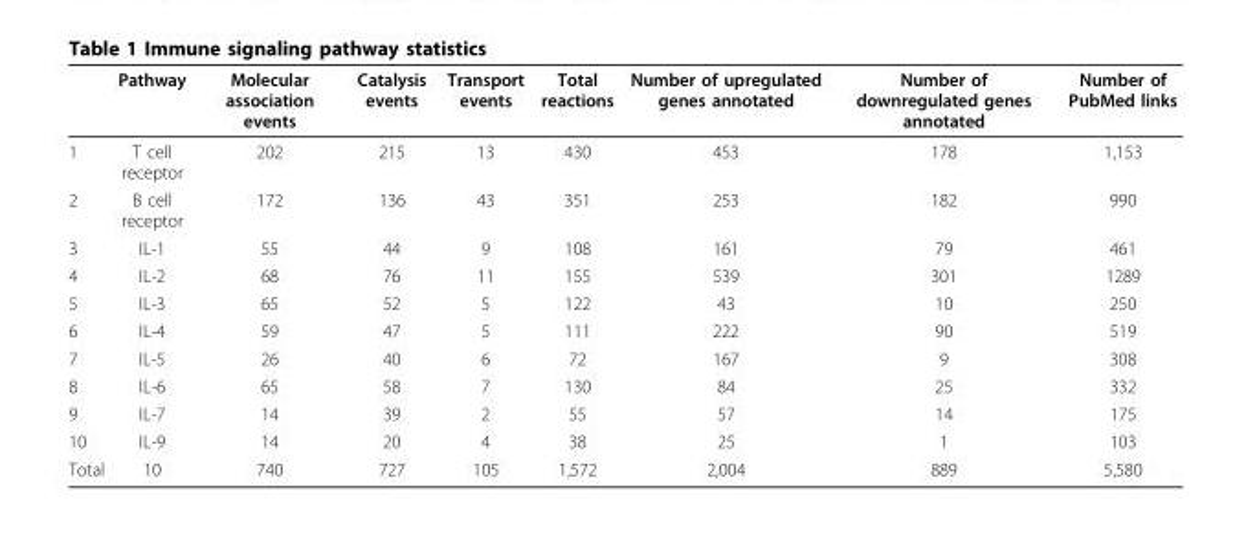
<table><thead><tr><td></td><td>Pathway</td><td>Molecular association events</td><td>Catalysis events</td><td>Transport events</td><td>Total reactions</td><td>Number of upregulated genes annotated</td><td>Number of downregulated genes annotated</td><td>Number of PubMed links</td></tr></thead><tbody><tr><td>1</td><td>T cell receptor</td><td>202</td><td>215</td><td>13</td><td>430</td><td>453</td><td>178</td><td>1,153</td></tr><tr><td>2</td><td>B cell receptor</td><td>172</td><td>136</td><td>43</td><td>351</td><td>253</td><td>182</td><td>990</td></tr><tr><td>3</td><td>IL-1</td><td>55</td><td>44</td><td>9</td><td>108</td><td>161</td><td>79</td><td>461</td></tr><tr><td>4</td><td>IL-2</td><td>68</td><td>76</td><td>11</td><td>155</td><td>539</td><td>301</td><td>1289</td></tr><tr><td>5</td><td>IL-3</td><td>65</td><td>52</td><td>5</td><td>122</td><td>43</td><td>10</td><td>250</td></tr><tr><td>6</td><td>IL-4</td><td>59</td><td>47</td><td>5</td><td>111</td><td>222</td><td>90</td><td>519</td></tr><tr><td>7</td><td>IL-5</td><td>26</td><td>40</td><td>6</td><td>72</td><td>167</td><td>9</td><td>308</td></tr><tr><td>8</td><td>IL-6</td><td>65</td><td>58</td><td>7</td><td>130</td><td>84</td><td>25</td><td>332</td></tr><tr><td>9</td><td>IL-7</td><td>14</td><td>39</td><td>2</td><td>55</td><td>57</td><td>14</td><td>175</td></tr><tr><td>10</td><td>IL-9</td><td>14</td><td>20</td><td>4</td><td>38</td><td>25</td><td>1</td><td>103</td></tr><tr><td>Total</td><td>10</td><td>740</td><td>727</td><td>105</td><td>1,572</td><td>2,004</td><td>889</td><td>5,580</td></tr></tbody></table>